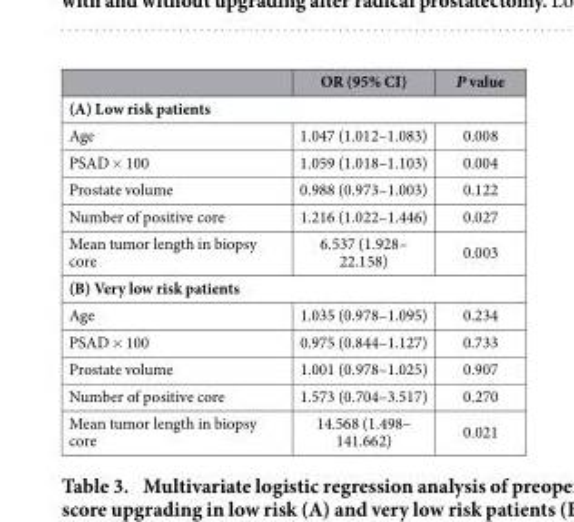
<table><thead><tr><td></td><td>OR (95% CI)</td><td>P value</td></tr></thead><tbody><tr><td colspan="3">(A) Low risk patients</td></tr><tr><td>Age</td><td>1.047 (1.012–1.083)</td><td>0.008</td></tr><tr><td>PSAD × 100</td><td>1.059 (1.018–1.103)</td><td>0.004</td></tr><tr><td>Prostate volume</td><td>0.988 (0.973–1.003)</td><td>0.122</td></tr><tr><td>Number of positive core</td><td>1.216 (1.022–1.446)</td><td>0.027</td></tr><tr><td>Mean tumor length in biopsy core</td><td>6.537 (1.928– 22.158)</td><td>0.003</td></tr><tr><td colspan="3">(B) Very low risk patients</td></tr><tr><td>Age</td><td>1.035 (0.978–1.095)</td><td>0.234</td></tr><tr><td>PSAD × 100</td><td>0.975 (0.844–1.127)</td><td>0.733</td></tr><tr><td>Prostate volume</td><td>1.001 (0.978–1.025)</td><td>0.907</td></tr><tr><td>Number of positive core</td><td>1.573 (0.704–3.517)</td><td>0.270</td></tr><tr><td>Mean tumor length in biopsy core</td><td>14.568 (1.498– 141.662)</td><td>0.021</td></tr></tbody></table>